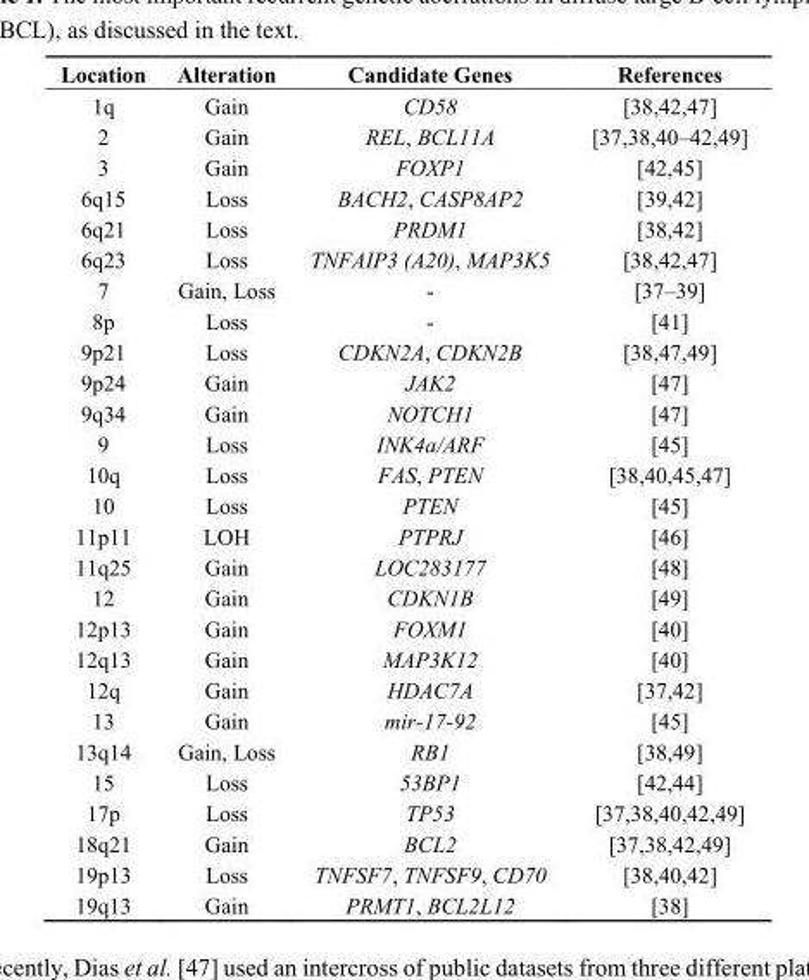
<table><thead><tr><td>Location</td><td>Alteration</td><td>Candidate Genes</td><td>References</td></tr></thead><tbody><tr><td>1q</td><td>Gain</td><td>CD58</td><td>[38,42,47]</td></tr><tr><td>2</td><td>Gain</td><td>REL, BCL11A</td><td>[37,38,40–42,49]</td></tr><tr><td>3</td><td>Gain</td><td>FOXP1</td><td>[42,45]</td></tr><tr><td>6q15</td><td>Loss</td><td>BACH2, CASP8AP2</td><td>[39,42]</td></tr><tr><td>6q21</td><td>Loss</td><td>PRDM1</td><td>[38,42]</td></tr><tr><td>6q23</td><td>Loss</td><td>TNFAIP3 (A20), MAP3K5</td><td>[38,42,47]</td></tr><tr><td>7</td><td>Gain, Loss</td><td>-</td><td>[37–39]</td></tr><tr><td>8p</td><td>Loss</td><td>-</td><td>[41]</td></tr><tr><td>9p21</td><td>Loss</td><td>CDKN2A, CDKN2B</td><td>[38,47,49]</td></tr><tr><td>9p24</td><td>Gain</td><td>JAK2</td><td>[47]</td></tr><tr><td>9q34</td><td>Gain</td><td>NOTCH1</td><td>[47]</td></tr><tr><td>9</td><td>Loss</td><td>INK4a/ARF</td><td>[45]</td></tr><tr><td>10q</td><td>Loss</td><td>FAS, PTEN</td><td>[38,40,45,47]</td></tr><tr><td>10</td><td>Loss</td><td>PTEN</td><td>[45]</td></tr><tr><td>11p11</td><td>LOH</td><td>PTPRJ</td><td>[46]</td></tr><tr><td>11q25</td><td>Gain</td><td>LOC283177</td><td>[48]</td></tr><tr><td>12</td><td>Gain</td><td>CDKN1B</td><td>[49]</td></tr><tr><td>12p13</td><td>Gain</td><td>FOXM1</td><td>[40]</td></tr><tr><td>12q13</td><td>Gain</td><td>MAP3K12</td><td>[40]</td></tr><tr><td>12q</td><td>Gain</td><td>HDAC7A</td><td>[37,42]</td></tr><tr><td>13</td><td>Gain</td><td>mir-17-92</td><td>[45]</td></tr><tr><td>13q14</td><td>Gain, Loss</td><td>RB1</td><td>[38,49]</td></tr><tr><td>15</td><td>Loss</td><td>53BP1</td><td>[42,44]</td></tr><tr><td>17p</td><td>Loss</td><td>TP53</td><td>[37,38,40,42,49]</td></tr><tr><td>18q21</td><td>Gain</td><td>BCL2</td><td>[37,38,42,49]</td></tr><tr><td>19p13</td><td>Loss</td><td>TNFSF7, TNFSF9, CD70</td><td>[38,40,42]</td></tr><tr><td>19q13</td><td>Gain</td><td>PRMT1, BCL2L12</td><td>[38]</td></tr></tbody></table>